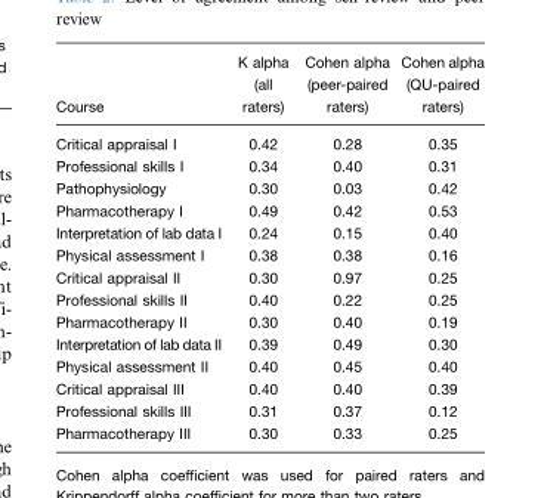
<table><thead><tr><td>Course</td><td>K alpha (all raters)</td><td>Cohen alpha (peer-paired raters)</td><td>Cohen alpha (QU-paired raters)</td></tr></thead><tbody><tr><td>Critical appraisal I</td><td>0.42</td><td>0.28</td><td>0.35</td></tr><tr><td>Professional skills I</td><td>0.34</td><td>0.40</td><td>0.31</td></tr><tr><td>Pathophysiology</td><td>0.30</td><td>0.03</td><td>0.42</td></tr><tr><td>Pharmacotherapy I</td><td>0.49</td><td>0.42</td><td>0.53</td></tr><tr><td>Interpretation of lab data I</td><td>0.24</td><td>0.15</td><td>0.40</td></tr><tr><td>Physical assessment I</td><td>0.38</td><td>0.38</td><td>0.16</td></tr><tr><td>Critical appraisal II</td><td>0.30</td><td>0.97</td><td>0.25</td></tr><tr><td>Professional skills II</td><td>0.40</td><td>0.22</td><td>0.25</td></tr><tr><td>Pharmacotherapy II</td><td>0.30</td><td>0.40</td><td>0.19</td></tr><tr><td>Interpretation of lab data II</td><td>0.39</td><td>0.49</td><td>0.30</td></tr><tr><td>Physical assessment II</td><td>0.40</td><td>0.45</td><td>0.40</td></tr><tr><td>Critical appraisal III</td><td>0.40</td><td>0.40</td><td>0.39</td></tr><tr><td>Professional skills III</td><td>0.31</td><td>0.37</td><td>0.12</td></tr><tr><td>Pharmacotherapy III</td><td>0.30</td><td>0.33</td><td>0.25</td></tr></tbody></table>